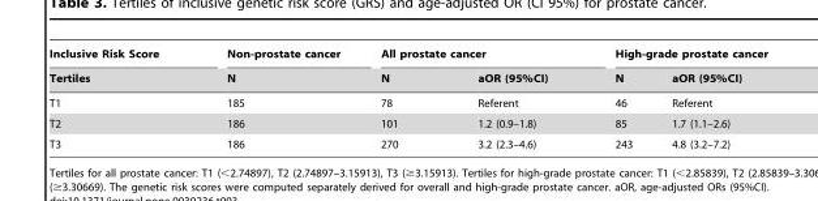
<table><thead><tr><td rowspan="2">Inclusive Risk Score Tertiles</td><td rowspan="2">Non-prostate cancer N</td><td colspan="2">All prostate cancer</td><td colspan="2">High-grade prostate cancer</td></tr><tr><td>N</td><td>aOR (95%CI)</td><td>N</td><td>aOR (95%CI)</td></tr></thead><tbody><tr><td>T1</td><td>185</td><td>78</td><td>Referent</td><td>46</td><td>Referent</td></tr><tr><td>T2</td><td>186</td><td>101</td><td>1.2 (0.9–1.8)</td><td>85</td><td>1.7 (1.1–2.6)</td></tr><tr><td>T3</td><td>186</td><td>270</td><td>3.2 (2.3–4.6)</td><td>243</td><td>4.8 (3.2–7.2)</td></tr></tbody></table>